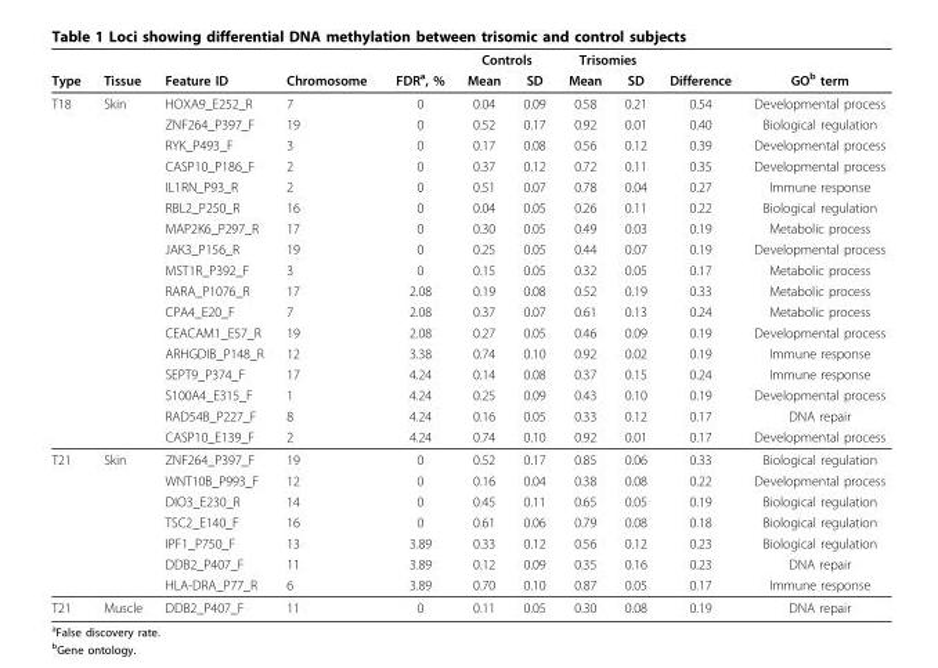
<table><thead><tr><td rowspan="2">Type</td><td rowspan="2">Tissue</td><td rowspan="2">Feature ID</td><td rowspan="2">Chromosome</td><td rowspan="2">FDR<sup>a</sup>, %</td><td colspan="2">Controls</td><td colspan="2">Trisomies</td><td rowspan="2">Difference</td><td rowspan="2">GO<sup>b</sup> term</td></tr><tr><td>Mean</td><td>SD</td><td>Mean</td><td>SD</td></tr></thead><tbody><tr><td rowspan="17">T18</td><td>Skin</td><td>HOXA9_E252_R</td><td>7</td><td>0</td><td>0.04</td><td>0.09</td><td>0.58</td><td>0.21</td><td>0.54</td><td>Developmental process</td></tr><tr><td></td><td>ZNF264_P397_F</td><td>19</td><td>0</td><td>0.52</td><td>0.17</td><td>0.92</td><td>0.01</td><td>0.40</td><td>Biological regulation</td></tr><tr><td></td><td>RYK_P493_F</td><td>3</td><td>0</td><td>0.17</td><td>0.08</td><td>0.56</td><td>0.12</td><td>0.39</td><td>Developmental process</td></tr><tr><td></td><td>CASP10_P186_F</td><td>2</td><td>0</td><td>0.37</td><td>0.12</td><td>0.72</td><td>0.11</td><td>0.35</td><td>Developmental process</td></tr><tr><td></td><td>IL1RN_P93_R</td><td>2</td><td>0</td><td>0.51</td><td>0.07</td><td>0.78</td><td>0.04</td><td>0.27</td><td>Immune response</td></tr><tr><td></td><td>RBL2_P250_R</td><td>16</td><td>0</td><td>0.04</td><td>0.05</td><td>0.26</td><td>0.11</td><td>0.22</td><td>Biological regulation</td></tr><tr><td></td><td>MAP2K6_P297_R</td><td>17</td><td>0</td><td>0.30</td><td>0.05</td><td>0.49</td><td>0.03</td><td>0.19</td><td>Metabolic process</td></tr><tr><td></td><td>JAK3_P156_R</td><td>19</td><td>0</td><td>0.25</td><td>0.05</td><td>0.44</td><td>0.07</td><td>0.19</td><td>Developmental process</td></tr><tr><td></td><td>MST1R_P392_F</td><td>3</td><td>0</td><td>0.15</td><td>0.05</td><td>0.32</td><td>0.05</td><td>0.17</td><td>Metabolic process</td></tr><tr><td></td><td>RARA_P1076_R</td><td>17</td><td>2.08</td><td>0.19</td><td>0.08</td><td>0.52</td><td>0.19</td><td>0.33</td><td>Metabolic process</td></tr><tr><td></td><td>CPA4_E20_F</td><td>7</td><td>2.08</td><td>0.37</td><td>0.07</td><td>0.61</td><td>0.13</td><td>0.24</td><td>Metabolic process</td></tr><tr><td></td><td>CEACAM1_E57_R</td><td>19</td><td>2.08</td><td>0.27</td><td>0.05</td><td>0.46</td><td>0.09</td><td>0.19</td><td>Developmental process</td></tr><tr><td></td><td>ARHGDIB_P148_R</td><td>12</td><td>3.38</td><td>0.74</td><td>0.10</td><td>0.92</td><td>0.02</td><td>0.19</td><td>Immune response</td></tr><tr><td></td><td>SEPT9_P374_F</td><td>17</td><td>4.24</td><td>0.14</td><td>0.08</td><td>0.37</td><td>0.15</td><td>0.24</td><td>Immune response</td></tr><tr><td></td><td>S100A4_E315_F</td><td>1</td><td>4.24</td><td>0.25</td><td>0.09</td><td>0.43</td><td>0.10</td><td>0.19</td><td>Developmental process</td></tr><tr><td></td><td>RAD54B_P227_F</td><td>8</td><td>4.24</td><td>0.16</td><td>0.05</td><td>0.33</td><td>0.12</td><td>0.17</td><td>DNA repair</td></tr><tr><td></td><td>CASP10_E139_F</td><td>2</td><td>4.24</td><td>0.74</td><td>0.10</td><td>0.92</td><td>0.01</td><td>0.17</td><td>Developmental process</td></tr><tr><td rowspan="7">T21</td><td>Skin</td><td>ZNF264_P397_F</td><td>19</td><td>0</td><td>0.52</td><td>0.17</td><td>0.85</td><td>0.06</td><td>0.33</td><td>Biological regulation</td></tr><tr><td></td><td>WNT10B_P993_F</td><td>12</td><td>0</td><td>0.16</td><td>0.04</td><td>0.38</td><td>0.08</td><td>0.22</td><td>Developmental process</td></tr><tr><td></td><td>DIO3_E230_R</td><td>14</td><td>0</td><td>0.45</td><td>0.11</td><td>0.65</td><td>0.05</td><td>0.19</td><td>Biological regulation</td></tr><tr><td></td><td>TSC2_E140_F</td><td>16</td><td>0</td><td>0.61</td><td>0.06</td><td>0.79</td><td>0.08</td><td>0.18</td><td>Biological regulation</td></tr><tr><td></td><td>IPF1_P750_F</td><td>13</td><td>3.89</td><td>0.33</td><td>0.12</td><td>0.56</td><td>0.12</td><td>0.23</td><td>Biological regulation</td></tr><tr><td></td><td>DDB2_P407_F</td><td>11</td><td>3.89</td><td>0.12</td><td>0.09</td><td>0.35</td><td>0.16</td><td>0.23</td><td>DNA repair</td></tr><tr><td></td><td>HLA-DRA_P77_R</td><td>6</td><td>3.89</td><td>0.70</td><td>0.10</td><td>0.87</td><td>0.05</td><td>0.17</td><td>Immune response</td></tr><tr><td>T21</td><td>Muscle</td><td>DDB2_P407_F</td><td>11</td><td>0</td><td>0.11</td><td>0.05</td><td>0.30</td><td>0.08</td><td>0.19</td><td>DNA repair</td></tr></tbody></table>